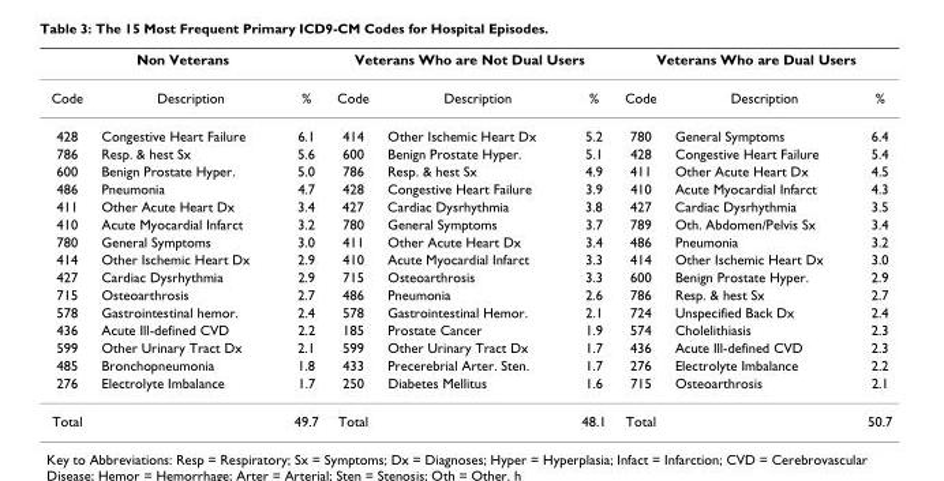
<table><thead><tr><td colspan="3">Non Veterans</td><td colspan="3">Veterans Who are Not Dual Users</td><td colspan="3">Veterans Who are Dual Users</td></tr><tr><td>Code</td><td>Description</td><td>%</td><td>Code</td><td>Description</td><td>%</td><td>Code</td><td>Description</td><td>%</td></tr></thead><tbody><tr><td>428</td><td>Congestive Heart Failure</td><td>6.1</td><td>414</td><td>Other Ischemic Heart Dx</td><td>5.2</td><td>780</td><td>General Symptoms</td><td>6.4</td></tr><tr><td>786</td><td>Resp. &amp; hest Sx</td><td>5.6</td><td>600</td><td>Benign Prostate Hyper.</td><td>5.1</td><td>428</td><td>Congestive Heart Failure</td><td>5.4</td></tr><tr><td>600</td><td>Benign Prostate Hyper.</td><td>5.0</td><td>786</td><td>Resp. &amp; hest Sx</td><td>4.9</td><td>411</td><td>Other Acute Heart Dx</td><td>4.5</td></tr><tr><td>486</td><td>Pneumonia</td><td>4.7</td><td>428</td><td>Congestive Heart Failure</td><td>3.9</td><td>410</td><td>Acute Myocardial Infarct</td><td>4.3</td></tr><tr><td>411</td><td>Other Acute Heart Dx</td><td>3.4</td><td>427</td><td>Cardiac Dysrhythmia</td><td>3.8</td><td>427</td><td>Cardiac Dysrhythmia</td><td>3.5</td></tr><tr><td>410</td><td>Acute Myocardial Infarct</td><td>3.2</td><td>780</td><td>General Symptoms</td><td>3.7</td><td>789</td><td>Oth. Abdomen/Pelvis Sx</td><td>3.4</td></tr><tr><td>780</td><td>General Symptoms</td><td>3.0</td><td>411</td><td>Other Acute Heart Dx</td><td>3.4</td><td>486</td><td>Pneumonia</td><td>3.2</td></tr><tr><td>414</td><td>Other Ischemic Heart Dx</td><td>2.9</td><td>410</td><td>Acute Myocardial Infarct</td><td>3.3</td><td>414</td><td>Other Ischemic Heart Dx</td><td>3.0</td></tr><tr><td>427</td><td>Cardiac Dysrhythmia</td><td>2.9</td><td>715</td><td>Osteoarthrosis</td><td>3.3</td><td>600</td><td>Benign Prostate Hyper.</td><td>2.9</td></tr><tr><td>715</td><td>Osteoarthrosis</td><td>2.7</td><td>486</td><td>Pneumonia</td><td>2.6</td><td>786</td><td>Resp. &amp; hest Sx</td><td>2.7</td></tr><tr><td>578</td><td>Gastrointestinal hemor.</td><td>2.4</td><td>578</td><td>Gastrointestinal Hemor.</td><td>2.1</td><td>724</td><td>Unspecified Back Dx</td><td>2.4</td></tr><tr><td>436</td><td>Acute Ill-defined CVD</td><td>2.2</td><td>185</td><td>Prostate Cancer</td><td>1.9</td><td>574</td><td>Cholelithiasis</td><td>2.3</td></tr><tr><td>599</td><td>Other Urinary Tract Dx</td><td>2.1</td><td>599</td><td>Other Urinary Tract Dx</td><td>1.7</td><td>436</td><td>Acute Ill-defined CVD</td><td>2.3</td></tr><tr><td>485</td><td>Bronchopneumonia</td><td>1.8</td><td>433</td><td>Precerebrial Arter. Sten.</td><td>1.7</td><td>276</td><td>Electrolyte Imbalance</td><td>2.2</td></tr><tr><td>276</td><td>Electrolyte Imbalance</td><td>1.7</td><td>250</td><td>Diabetes Mellitus</td><td>1.6</td><td>715</td><td>Osteoarthrosis</td><td>2.1</td></tr><tr><td>Total</td><td></td><td>49.7</td><td>Total</td><td></td><td>48.1</td><td>Total</td><td></td><td>50.7</td></tr></tbody></table>